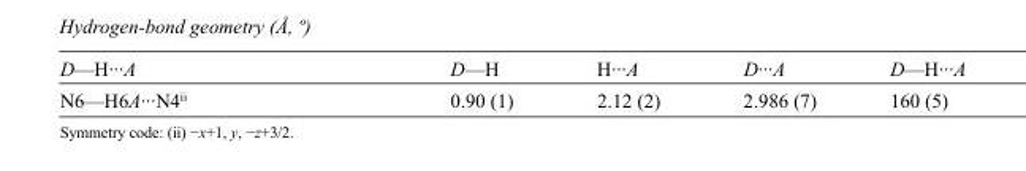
<table><tbody><tr><td>D—H···A</td><td>D—H</td><td>H···A</td><td>D···A</td><td>D—H···A</td></tr><tr><td>N6—H6A···N4<sup>ii</sup></td><td>0.90 (1)</td><td>2.12 (2)</td><td>2.986 (7)</td><td>160 (5)</td></tr></tbody></table>